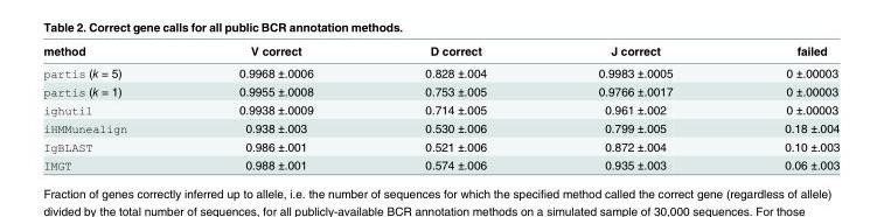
<table><thead><tr><td>method</td><td>V correct</td><td>D correct</td><td>J correct</td><td>failed</td></tr></thead><tbody><tr><td>partis (k = 5)</td><td>0.9968 ±.0006</td><td>0.828 ±.004</td><td>0.9983 ±.0005</td><td>0 ±.00003</td></tr><tr><td>partis (k = 1)</td><td>0.9955 ±.0008</td><td>0.753 ±.005</td><td>0.9766 ±.0017</td><td>0 ±.00003</td></tr><tr><td>ighutil</td><td>0.9938 ±.0009</td><td>0.714 ±.005</td><td>0.961 ±.002</td><td>0 ±.00003</td></tr><tr><td>iHMMunealign</td><td>0.938 ±.003</td><td>0.530 ±.006</td><td>0.799 ±.005</td><td>0.18 ±.004</td></tr><tr><td>IgBLAST</td><td>0.986 ±.001</td><td>0.521 ±.006</td><td>0.872 ±.004</td><td>0.10 ±.003</td></tr><tr><td>IMGT</td><td>0.988 ±.001</td><td>0.574 ±.006</td><td>0.935 ±.003</td><td>0.06 ±.003</td></tr></tbody></table>